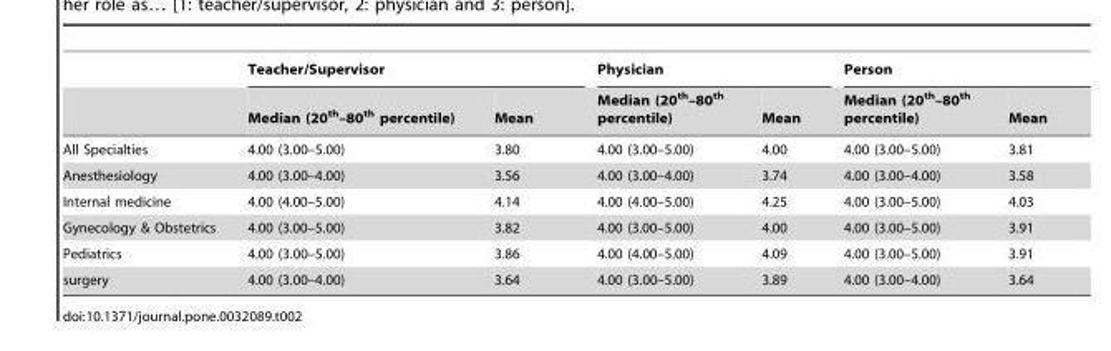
<table><thead><tr><td rowspan="2"></td><td colspan="2">Teacher/Supervisor</td><td colspan="2">Physician</td><td colspan="2">Person</td></tr><tr><td>Median (20<sup>th</sup>–80<sup>th</sup> percentile)</td><td>Mean</td><td>Median (20<sup>th</sup>–80<sup>th</sup> percentile)</td><td>Mean</td><td>Median (20<sup>th</sup>–80<sup>th</sup> percentile)</td><td>Mean</td></tr></thead><tbody><tr><td>All Specialties</td><td>4.00 (3.00–5.00)</td><td>3.80</td><td>4.00 (3.00–5.00)</td><td>4.00</td><td>4.00 (3.00–5.00)</td><td>3.81</td></tr><tr><td>Anesthesiology</td><td>4.00 (3.00–4.00)</td><td>3.56</td><td>4.00 (3.00–4.00)</td><td>3.74</td><td>4.00 (3.00–4.00)</td><td>3.58</td></tr><tr><td>Internal medicine</td><td>4.00 (4.00–5.00)</td><td>4.14</td><td>4.00 (4.00–5.00)</td><td>4.25</td><td>4.00 (3.00–5.00)</td><td>4.03</td></tr><tr><td>Gynecology &amp; Obstetrics</td><td>4.00 (3.00–5.00)</td><td>3.82</td><td>4.00 (3.00–5.00)</td><td>4.00</td><td>4.00 (3.00–5.00)</td><td>3.91</td></tr><tr><td>Pediatrics</td><td>4.00 (3.00–5.00)</td><td>3.86</td><td>4.00 (4.00–5.00)</td><td>4.09</td><td>4.00 (3.00–5.00)</td><td>3.91</td></tr><tr><td>surgery</td><td>4.00 (3.00–4.00)</td><td>3.64</td><td>4.00 (3.00–5.00)</td><td>3.89</td><td>4.00 (3.00–4.00)</td><td>3.64</td></tr></tbody></table>